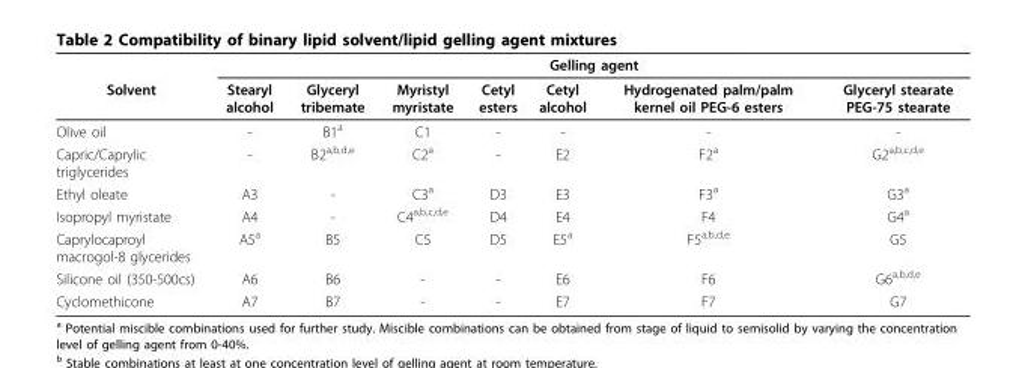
<table><thead><tr><td rowspan="2">Solvent</td><td colspan="7">Gelling agent</td></tr><tr><td>Stearyl alcohol</td><td>Glyceryl tribemate</td><td>Myristyl myristate</td><td>Cetyl esters</td><td>Cetyl alcohol</td><td>Hydrogenated palm/palm kernel oil PEG-6 esters</td><td>Glyceryl stearate PEG-75 stearate</td></tr></thead><tbody><tr><td>Olive oil</td><td>-</td><td>B1<sup>a</sup></td><td>C1</td><td>-</td><td>-</td><td>-</td><td>-</td></tr><tr><td>Capric/Caprylic triglycerides</td><td>-</td><td>B2<sup>a,b,d,e</sup></td><td>C2<sup>a</sup></td><td>-</td><td>E2</td><td>F2<sup>a</sup></td><td>G2<sup>a,b,c,d,e</sup></td></tr><tr><td>Ethyl oleate</td><td>A3</td><td>-</td><td>C3<sup>a</sup></td><td>D3</td><td>E3</td><td>F3<sup>a</sup></td><td>G3<sup>a</sup></td></tr><tr><td>Isopropyl myristate</td><td>A4</td><td>-</td><td>C4<sup>a,b,c,d,e</sup></td><td>D4</td><td>E4</td><td>F4</td><td>G4<sup>a</sup></td></tr><tr><td>Caprylocaproyl macrogol-8 glycerides</td><td>A5<sup>a</sup></td><td>B5</td><td>C5</td><td>D5</td><td>E5<sup>a</sup></td><td>F5<sup>a,b,d,e</sup></td><td>G5</td></tr><tr><td>Silicone oil (350-500cs)</td><td>A6</td><td>B6</td><td>-</td><td>-</td><td>E6</td><td>F6</td><td>G6<sup>a,b,d,e</sup></td></tr><tr><td>Cyclomethicone</td><td>A7</td><td>B7</td><td>-</td><td>-</td><td>E7</td><td>F7</td><td>G7</td></tr></tbody></table>